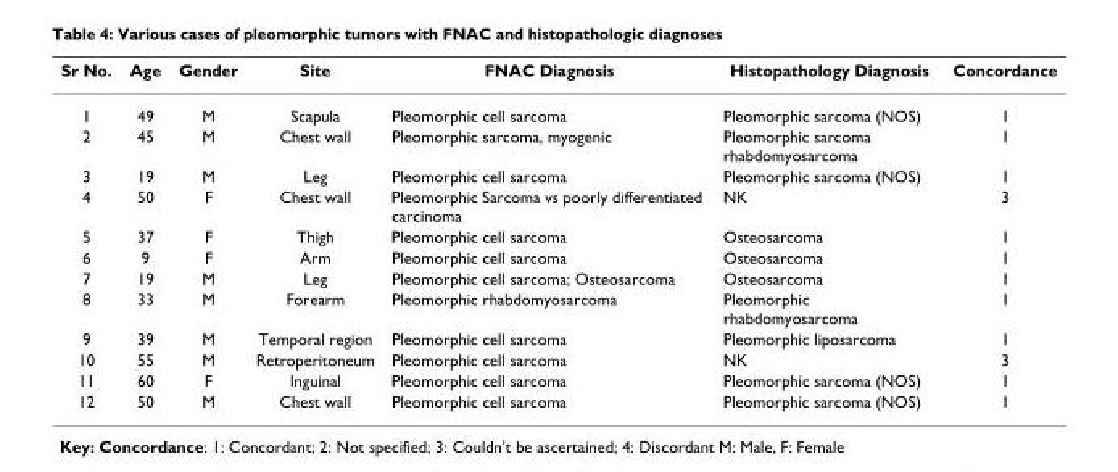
<table><thead><tr><td>Sr No.</td><td>Age</td><td>Gender</td><td>Site</td><td>FNAC Diagnosis</td><td>Histopathology Diagnosis</td><td>Concordance</td></tr></thead><tbody><tr><td>1</td><td>49</td><td>M</td><td>Scapula</td><td>Pleomorphic cell sarcoma</td><td>Pleomorphic sarcoma (NOS)</td><td>1</td></tr><tr><td>2</td><td>45</td><td>M</td><td>Chest wall</td><td>Pleomorphic sarcoma, myogenic</td><td>Pleomorphic sarcoma rhabdomyosarcoma</td><td>1</td></tr><tr><td>3</td><td>19</td><td>M</td><td>Leg</td><td>Pleomorphic cell sarcoma</td><td>Pleomorphic sarcoma (NOS)</td><td>1</td></tr><tr><td>4</td><td>50</td><td>F</td><td>Chest wall</td><td>Pleomorphic Sarcoma vs poorly differentiated carcinoma</td><td>NK</td><td>3</td></tr><tr><td>5</td><td>37</td><td>F</td><td>Thigh</td><td>Pleomorphic cell sarcoma</td><td>Osteosarcoma</td><td>1</td></tr><tr><td>6</td><td>9</td><td>F</td><td>Arm</td><td>Pleomorphic cell sarcoma</td><td>Osteosarcoma</td><td>1</td></tr><tr><td>7</td><td>19</td><td>M</td><td>Leg</td><td>Pleomorphic cell sarcoma; Osteosarcoma</td><td>Osteosarcoma</td><td>1</td></tr><tr><td>8</td><td>33</td><td>M</td><td>Forearm</td><td>Pleomorphic rhabdomyosarcoma</td><td>Pleomorphic rhabdomyosarcoma</td><td>1</td></tr><tr><td>9</td><td>39</td><td>M</td><td>Temporal region</td><td>Pleomorphic cell sarcoma</td><td>Pleomorphic liposarcoma</td><td>1</td></tr><tr><td>10</td><td>55</td><td>M</td><td>Retroperitoneum</td><td>Pleomorphic cell sarcoma</td><td>NK</td><td>3</td></tr><tr><td>11</td><td>60</td><td>F</td><td>Inguinal</td><td>Pleomorphic cell sarcoma</td><td>Pleomorphic sarcoma (NOS)</td><td>1</td></tr><tr><td>12</td><td>50</td><td>M</td><td>Chest wall</td><td>Pleomorphic cell sarcoma</td><td>Pleomorphic sarcoma (NOS)</td><td>1</td></tr></tbody></table>